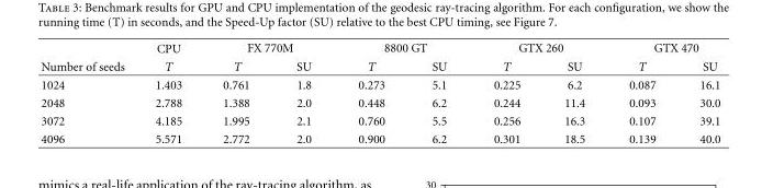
<table><thead><tr><td rowspan="2">Number of seeds</td><td rowspan="2">CPU T</td><td colspan="2">FX 770M</td><td colspan="2">8800 GT</td><td colspan="2">GTX 260</td><td colspan="2">GTX 470</td></tr><tr><td>T</td><td>SU</td><td>T</td><td>SU</td><td>T</td><td>SU</td><td>T</td><td>SU</td></tr></thead><tbody><tr><td>1024</td><td>1.403</td><td>0.761</td><td>1.8</td><td>0.273</td><td>5.1</td><td>0.225</td><td>6.2</td><td>0.087</td><td>16.1</td></tr><tr><td>2048</td><td>2.788</td><td>1.388</td><td>2.0</td><td>0.448</td><td>6.2</td><td>0.244</td><td>11.4</td><td>0.093</td><td>30.0</td></tr><tr><td>3072</td><td>4.185</td><td>1.995</td><td>2.1</td><td>0.760</td><td>5.5</td><td>0.256</td><td>16.3</td><td>0.107</td><td>39.1</td></tr><tr><td>4096</td><td>5.571</td><td>2.772</td><td>2.0</td><td>0.900</td><td>6.2</td><td>0.301</td><td>18.5</td><td>0.139</td><td>40.0</td></tr></tbody></table>